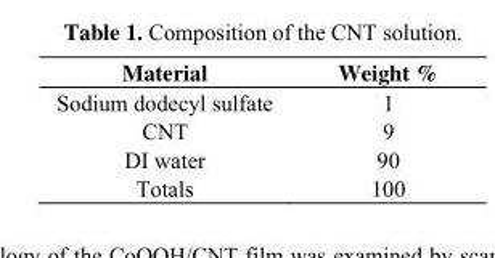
<table><thead><tr><td>Material</td><td>Weight %</td></tr></thead><tbody><tr><td>Sodium dodecyl sulfate</td><td>1</td></tr><tr><td>CNT</td><td>9</td></tr><tr><td>DI water</td><td>90</td></tr><tr><td>Totals</td><td>100</td></tr></tbody></table>